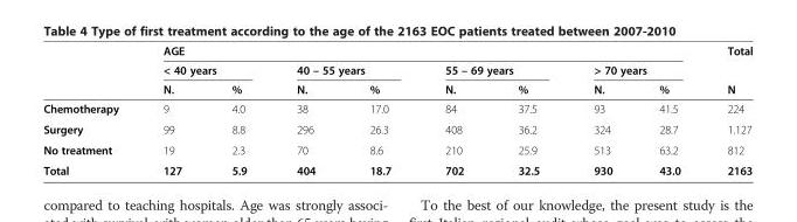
<table><thead><tr><td rowspan="3"></td><td colspan="8">AGE</td><td rowspan="3">Total N</td></tr><tr><td colspan="2">&lt; 40 years</td><td colspan="2">40 – 55 years</td><td colspan="2">55 – 69 years</td><td colspan="2">&gt; 70 years</td></tr><tr><td>N.</td><td>%</td><td>N.</td><td>%</td><td>N.</td><td>%</td><td>N.</td><td>%</td></tr></thead><tbody><tr><td>Chemotherapy</td><td>9</td><td>4.0</td><td>38</td><td>17.0</td><td>84</td><td>37.5</td><td>93</td><td>41.5</td><td>224</td></tr><tr><td>Surgery</td><td>99</td><td>8.8</td><td>296</td><td>26.3</td><td>408</td><td>36.2</td><td>324</td><td>28.7</td><td>1.127</td></tr><tr><td>No treatment</td><td>19</td><td>2.3</td><td>70</td><td>8.6</td><td>210</td><td>25.9</td><td>513</td><td>63.2</td><td>812</td></tr><tr><td>Total</td><td>127</td><td>5.9</td><td>404</td><td>18.7</td><td>702</td><td>32.5</td><td>930</td><td>43.0</td><td>2163</td></tr></tbody></table>